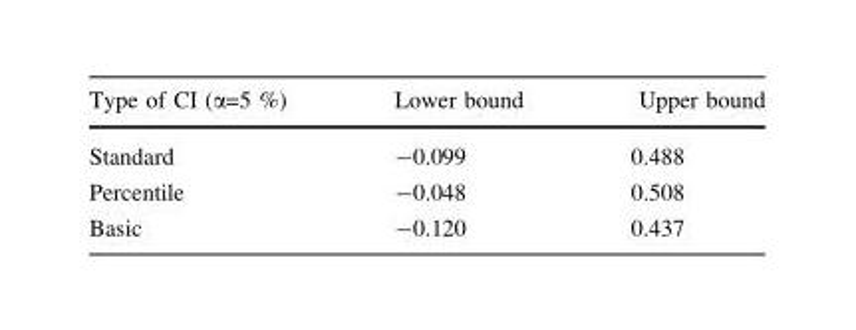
<table><thead><tr><td>Type of CI (α=5 %)</td><td>Lower bound</td><td>Upper bound</td></tr></thead><tbody><tr><td>Standard</td><td>-0.099</td><td>0.488</td></tr><tr><td>Percentile</td><td>-0.048</td><td>0.508</td></tr><tr><td>Basic</td><td>-0.120</td><td>0.437</td></tr></tbody></table>